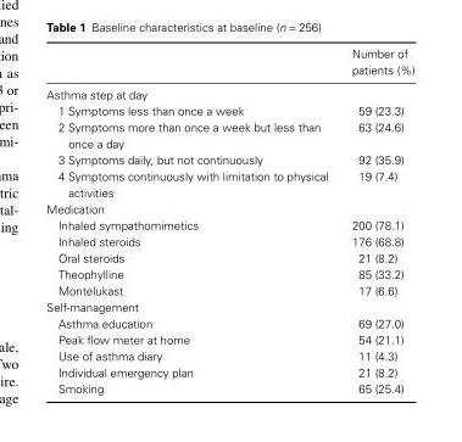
<table><thead><tr><td></td><td>Number of patients (%)</td></tr></thead><tbody><tr><td colspan="2">Asthma step at day</td></tr><tr><td>1 Symptoms less than once a week</td><td>59 (23.3)</td></tr><tr><td>2 Symptoms more than once a week but less than once a day</td><td>63 (24.6)</td></tr><tr><td>3 Symptoms daily, but not continuously</td><td>92 (35.9)</td></tr><tr><td>4 Symptoms continuously with limitation to physical activities</td><td>19 (7.4)</td></tr><tr><td colspan="2">Medication</td></tr><tr><td>Inhaled sympathomimetics</td><td>200 (78.1)</td></tr><tr><td>Inhaled steroids</td><td>176 (68.8)</td></tr><tr><td>Oral steroids</td><td>21 (8.2)</td></tr><tr><td>Theophylline</td><td>85 (33.2)</td></tr><tr><td>Montelukast</td><td>17 (6.6)</td></tr><tr><td colspan="2">Self-management</td></tr><tr><td>Asthma education</td><td>69 (27.0)</td></tr><tr><td>Peak flow meter at home</td><td>54 (21.1)</td></tr><tr><td>Use of asthma diary</td><td>11 (4.3)</td></tr><tr><td>Individual emergency plan</td><td>21 (8.2)</td></tr><tr><td>Smoking</td><td>65 (25.4)</td></tr></tbody></table>